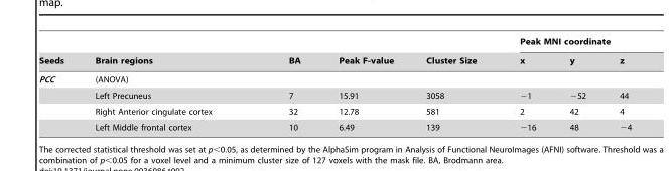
<table><thead><tr><td rowspan="2">Seeds</td><td rowspan="2">Brain regions</td><td rowspan="2">BA</td><td rowspan="2">Peak F-value</td><td rowspan="2">Cluster Size</td><td colspan="3">Peak MNI coordinate</td></tr><tr><td>x</td><td>y</td><td>z</td></tr></thead><tbody><tr><td rowspan="4">PCC</td><td>(ANOVA)</td><td></td><td></td><td></td><td></td><td></td><td></td></tr><tr><td>Left Precuneus</td><td>7</td><td>15.91</td><td>3058</td><td>−1</td><td>−52</td><td>44</td></tr><tr><td>Right Anterior cingulate cortex</td><td>32</td><td>12.78</td><td>581</td><td>2</td><td>42</td><td>4</td></tr><tr><td>Left Middle frontal cortex</td><td>10</td><td>6.49</td><td>139</td><td>−16</td><td>48</td><td>−4</td></tr></tbody></table>